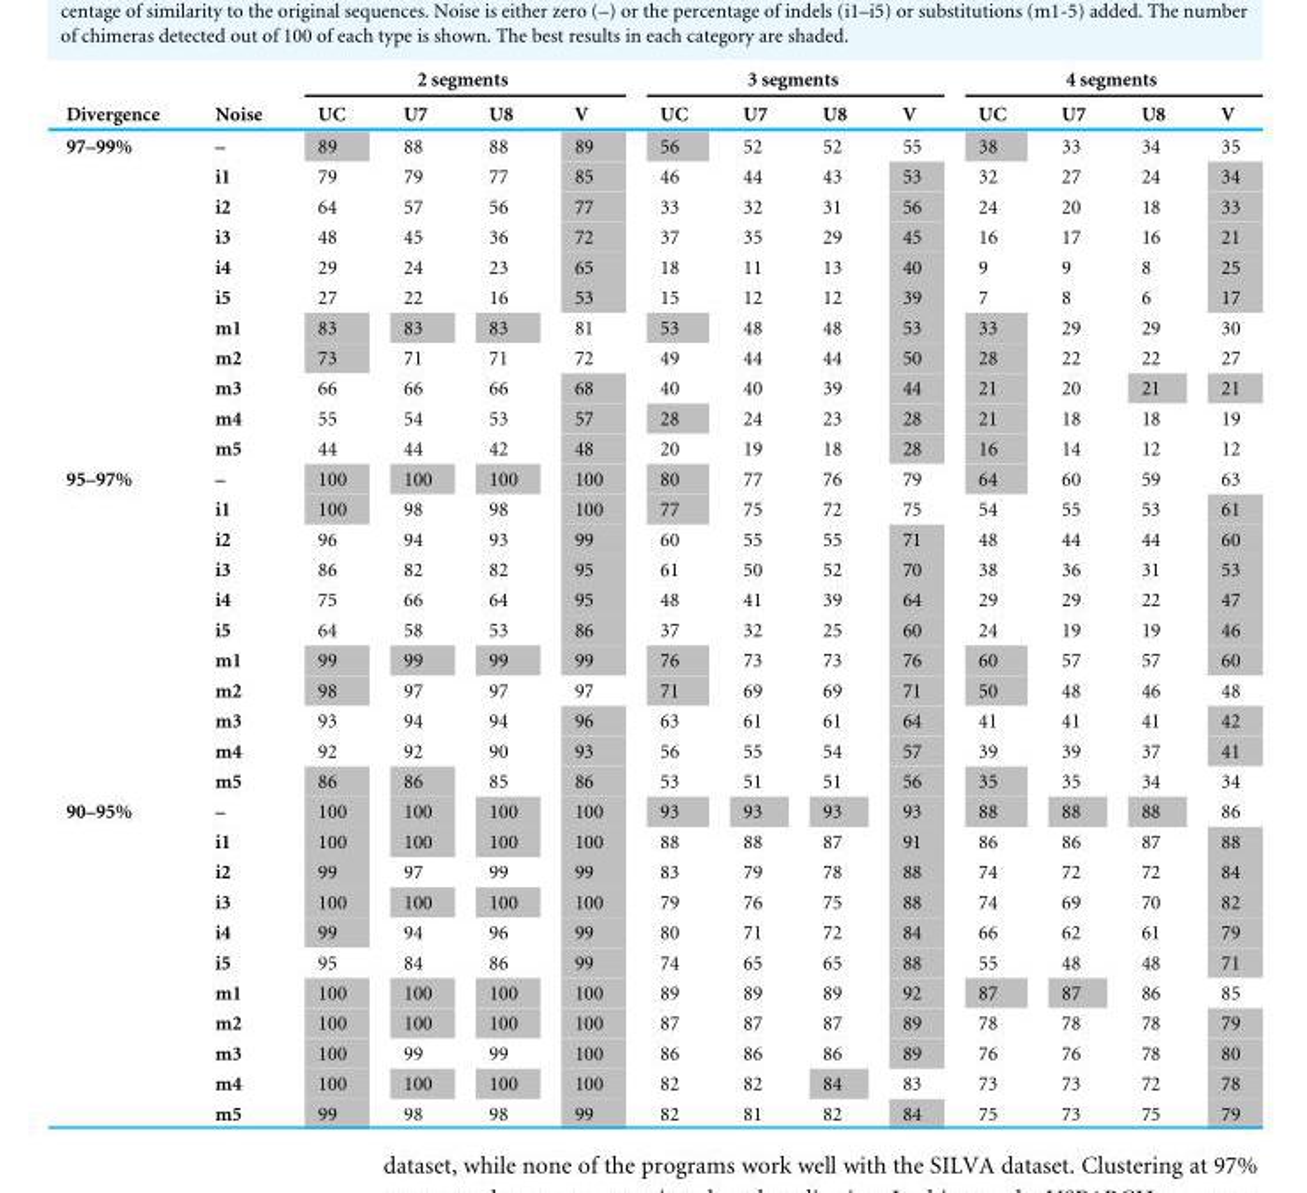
<table><thead><tr><td rowspan="2">Divergence</td><td rowspan="2">Noise</td><td colspan="4">2 segments</td><td colspan="4">3 segments</td><td colspan="4">4 segments</td></tr><tr><td>UC</td><td>U7</td><td>U8</td><td>V</td><td>UC</td><td>U7</td><td>U8</td><td>V</td><td>UC</td><td>U7</td><td>U8</td><td>V</td></tr></thead><tbody><tr><td rowspan="11">97–99%</td><td>–</td><td>89</td><td>88</td><td>88</td><td>89</td><td>56</td><td>52</td><td>52</td><td>55</td><td>38</td><td>33</td><td>34</td><td>35</td></tr><tr><td>i1</td><td>79</td><td>79</td><td>77</td><td>85</td><td>46</td><td>44</td><td>43</td><td>53</td><td>32</td><td>27</td><td>24</td><td>34</td></tr><tr><td>i2</td><td>64</td><td>57</td><td>56</td><td>77</td><td>33</td><td>32</td><td>31</td><td>56</td><td>24</td><td>20</td><td>18</td><td>33</td></tr><tr><td>i3</td><td>48</td><td>45</td><td>36</td><td>72</td><td>37</td><td>35</td><td>29</td><td>45</td><td>16</td><td>17</td><td>16</td><td>21</td></tr><tr><td>i4</td><td>29</td><td>24</td><td>23</td><td>65</td><td>18</td><td>11</td><td>13</td><td>40</td><td>9</td><td>9</td><td>8</td><td>25</td></tr><tr><td>i5</td><td>27</td><td>22</td><td>16</td><td>53</td><td>15</td><td>12</td><td>12</td><td>39</td><td>7</td><td>8</td><td>6</td><td>17</td></tr><tr><td>m1</td><td>83</td><td>83</td><td>83</td><td>81</td><td>53</td><td>48</td><td>48</td><td>53</td><td>33</td><td>29</td><td>29</td><td>30</td></tr><tr><td>m2</td><td>73</td><td>71</td><td>71</td><td>72</td><td>49</td><td>44</td><td>44</td><td>50</td><td>28</td><td>22</td><td>22</td><td>27</td></tr><tr><td>m3</td><td>66</td><td>66</td><td>66</td><td>68</td><td>40</td><td>40</td><td>39</td><td>44</td><td>21</td><td>20</td><td>21</td><td>21</td></tr><tr><td>m4</td><td>55</td><td>54</td><td>53</td><td>57</td><td>28</td><td>24</td><td>23</td><td>28</td><td>21</td><td>18</td><td>18</td><td>19</td></tr><tr><td>m5</td><td>44</td><td>44</td><td>42</td><td>48</td><td>20</td><td>19</td><td>18</td><td>28</td><td>16</td><td>14</td><td>12</td><td>12</td></tr><tr><td rowspan="11">95–97%</td><td>–</td><td>100</td><td>100</td><td>100</td><td>100</td><td>80</td><td>77</td><td>76</td><td>79</td><td>64</td><td>60</td><td>59</td><td>63</td></tr><tr><td>i1</td><td>100</td><td>98</td><td>98</td><td>100</td><td>77</td><td>75</td><td>72</td><td>75</td><td>54</td><td>55</td><td>53</td><td>61</td></tr><tr><td>i2</td><td>96</td><td>94</td><td>93</td><td>99</td><td>60</td><td>55</td><td>55</td><td>71</td><td>48</td><td>44</td><td>44</td><td>60</td></tr><tr><td>i3</td><td>86</td><td>82</td><td>82</td><td>95</td><td>61</td><td>50</td><td>52</td><td>70</td><td>38</td><td>36</td><td>31</td><td>53</td></tr><tr><td>i4</td><td>75</td><td>66</td><td>64</td><td>95</td><td>48</td><td>41</td><td>39</td><td>64</td><td>29</td><td>29</td><td>22</td><td>47</td></tr><tr><td>i5</td><td>64</td><td>58</td><td>53</td><td>86</td><td>37</td><td>32</td><td>25</td><td>60</td><td>24</td><td>19</td><td>19</td><td>46</td></tr><tr><td>m1</td><td>99</td><td>99</td><td>99</td><td>99</td><td>76</td><td>73</td><td>73</td><td>76</td><td>60</td><td>57</td><td>57</td><td>60</td></tr><tr><td>m2</td><td>98</td><td>97</td><td>97</td><td>97</td><td>71</td><td>69</td><td>69</td><td>71</td><td>50</td><td>48</td><td>46</td><td>48</td></tr><tr><td>m3</td><td>93</td><td>94</td><td>94</td><td>96</td><td>63</td><td>61</td><td>61</td><td>64</td><td>41</td><td>41</td><td>41</td><td>42</td></tr><tr><td>m4</td><td>92</td><td>92</td><td>90</td><td>93</td><td>56</td><td>55</td><td>54</td><td>57</td><td>39</td><td>39</td><td>37</td><td>41</td></tr><tr><td>m5</td><td>86</td><td>86</td><td>85</td><td>86</td><td>53</td><td>51</td><td>51</td><td>56</td><td>35</td><td>35</td><td>34</td><td>34</td></tr><tr><td rowspan="11">90–95%</td><td>–</td><td>100</td><td>100</td><td>100</td><td>100</td><td>93</td><td>93</td><td>93</td><td>93</td><td>88</td><td>88</td><td>88</td><td>86</td></tr><tr><td>i1</td><td>100</td><td>100</td><td>100</td><td>100</td><td>88</td><td>88</td><td>87</td><td>91</td><td>86</td><td>86</td><td>87</td><td>88</td></tr><tr><td>i2</td><td>99</td><td>97</td><td>99</td><td>99</td><td>83</td><td>79</td><td>78</td><td>88</td><td>74</td><td>72</td><td>72</td><td>84</td></tr><tr><td>i3</td><td>100</td><td>100</td><td>100</td><td>100</td><td>79</td><td>76</td><td>75</td><td>88</td><td>74</td><td>69</td><td>70</td><td>82</td></tr><tr><td>i4</td><td>99</td><td>94</td><td>96</td><td>99</td><td>80</td><td>71</td><td>72</td><td>84</td><td>66</td><td>62</td><td>61</td><td>79</td></tr><tr><td>i5</td><td>95</td><td>84</td><td>86</td><td>99</td><td>74</td><td>65</td><td>65</td><td>88</td><td>55</td><td>48</td><td>48</td><td>71</td></tr><tr><td>m1</td><td>100</td><td>100</td><td>100</td><td>100</td><td>89</td><td>89</td><td>89</td><td>92</td><td>87</td><td>87</td><td>86</td><td>85</td></tr><tr><td>m2</td><td>100</td><td>100</td><td>100</td><td>100</td><td>87</td><td>87</td><td>87</td><td>89</td><td>78</td><td>78</td><td>78</td><td>79</td></tr><tr><td>m3</td><td>100</td><td>99</td><td>99</td><td>100</td><td>86</td><td>86</td><td>86</td><td>89</td><td>76</td><td>76</td><td>78</td><td>80</td></tr><tr><td>m4</td><td>100</td><td>100</td><td>100</td><td>100</td><td>82</td><td>82</td><td>84</td><td>83</td><td>73</td><td>73</td><td>72</td><td>78</td></tr><tr><td>m5</td><td>99</td><td>98</td><td>98</td><td>99</td><td>82</td><td>81</td><td>82</td><td>84</td><td>75</td><td>73</td><td>75</td><td>79</td></tr></tbody></table>